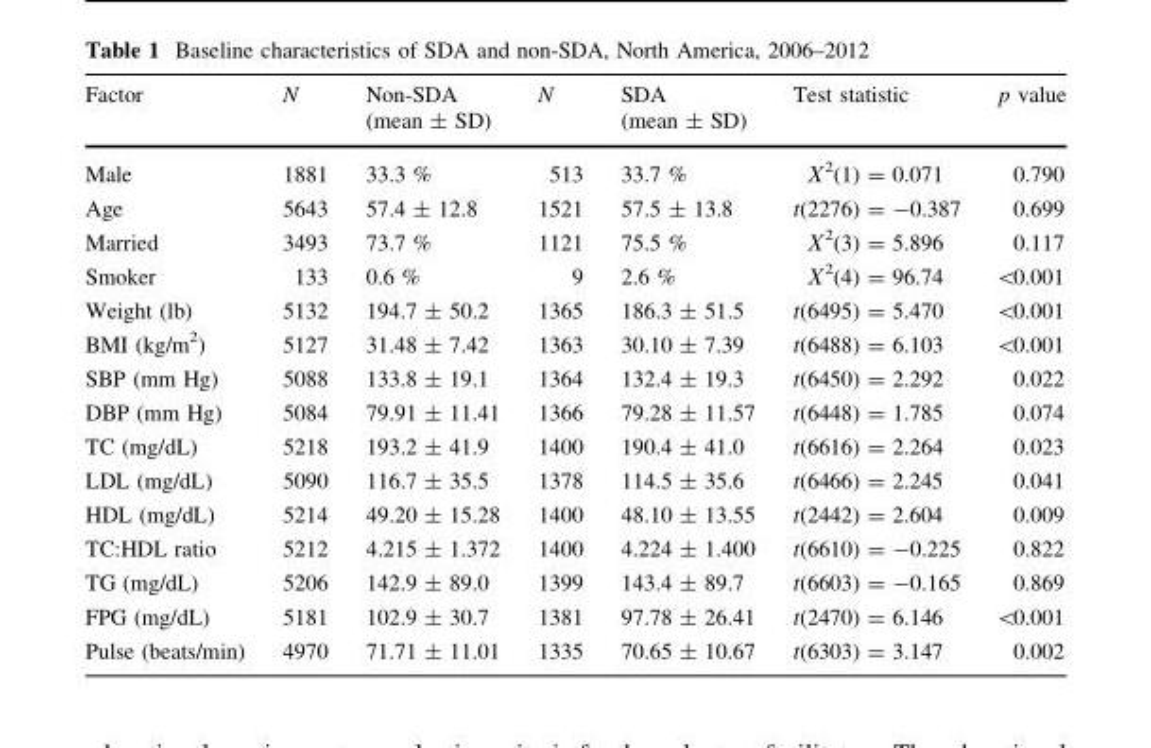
<table><thead><tr><td>Factor</td><td>N</td><td>Non-SDA (mean ± SD)</td><td>N</td><td>SDA (mean ± SD)</td><td>Test statistic</td><td>p value</td></tr></thead><tbody><tr><td>Male</td><td>1881</td><td>33.3 %</td><td>513</td><td>33.7 %</td><td>Χ<sup>2</sup>(1) = 0.071</td><td>0.790</td></tr><tr><td>Age</td><td>5643</td><td>57.4 ± 12.8</td><td>1521</td><td>57.5 ± 13.8</td><td>t(2276) = -0.387</td><td>0.699</td></tr><tr><td>Married</td><td>3493</td><td>73.7 %</td><td>1121</td><td>75.5 %</td><td>Χ<sup>2</sup>(3) = 5.896</td><td>0.117</td></tr><tr><td>Smoker</td><td>133</td><td>0.6 %</td><td>9</td><td>2.6 %</td><td>Χ<sup>2</sup>(4) = 96.74</td><td>&lt;0.001</td></tr><tr><td>Weight (lb)</td><td>5132</td><td>194.7 ± 50.2</td><td>1365</td><td>186.3 ± 51.5</td><td>t(6495) = 5.470</td><td>&lt;0.001</td></tr><tr><td>BMI (kg/m<sup>2</sup>)</td><td>5127</td><td>31.48 ± 7.42</td><td>1363</td><td>30.10 ± 7.39</td><td>t(6488) = 6.103</td><td>&lt;0.001</td></tr><tr><td>SBP (mm Hg)</td><td>5088</td><td>133.8 ± 19.1</td><td>1364</td><td>132.4 ± 19.3</td><td>t(6450) = 2.292</td><td>0.022</td></tr><tr><td>DBP (mm Hg)</td><td>5084</td><td>79.91 ± 11.41</td><td>1366</td><td>79.28 ± 11.57</td><td>t(6448) = 1.785</td><td>0.074</td></tr><tr><td>TC (mg/dL)</td><td>5218</td><td>193.2 ± 41.9</td><td>1400</td><td>190.4 ± 41.0</td><td>t(6616) = 2.264</td><td>0.023</td></tr><tr><td>LDL (mg/dL)</td><td>5090</td><td>116.7 ± 35.5</td><td>1378</td><td>114.5 ± 35.6</td><td>t(6466) = 2.245</td><td>0.041</td></tr><tr><td>HDL (mg/dL)</td><td>5214</td><td>49.20 ± 15.28</td><td>1400</td><td>48.10 ± 13.55</td><td>t(2442) = 2.604</td><td>0.009</td></tr><tr><td>TC:HDL ratio</td><td>5212</td><td>4.215 ± 1.372</td><td>1400</td><td>4.224 ± 1.400</td><td>t(6610) = -0.225</td><td>0.822</td></tr><tr><td>TG (mg/dL)</td><td>5206</td><td>142.9 ± 89.0</td><td>1399</td><td>143.4 ± 89.7</td><td>t(6603) = -0.165</td><td>0.869</td></tr><tr><td>FPG (mg/dL)</td><td>5181</td><td>102.9 ± 30.7</td><td>1381</td><td>97.78 ± 26.41</td><td>t(2470) = 6.146</td><td>&lt;0.001</td></tr><tr><td>Pulse (beats/min)</td><td>4970</td><td>71.71 ± 11.01</td><td>1335</td><td>70.65 ± 10.67</td><td>t(6303) = 3.147</td><td>0.002</td></tr></tbody></table>